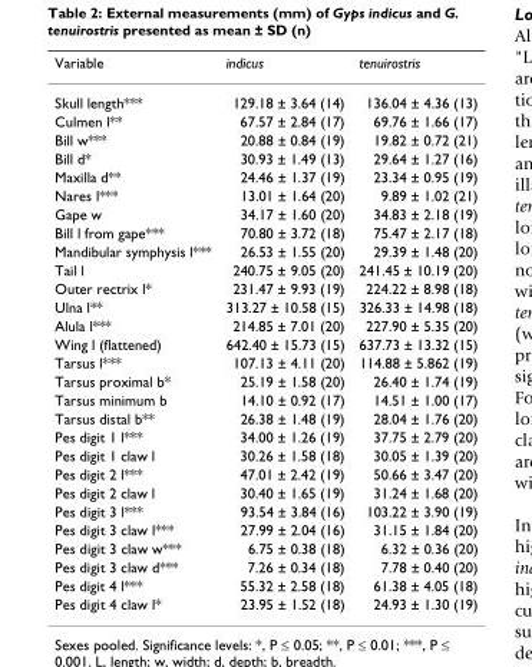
<table><thead><tr><td>Variable</td><td>indicus</td><td>tenuirostris</td></tr></thead><tbody><tr><td>Skull length***</td><td>129.18 ± 3.64 (14)</td><td>136.04 ± 4.36 (13)</td></tr><tr><td>Culmen l**</td><td>67.57 ± 2.84 (17)</td><td>69.76 ± 1.66 (17)</td></tr><tr><td>Bill w***</td><td>20.88 ± 0.84 (19)</td><td>19.82 ± 0.72 (21)</td></tr><tr><td>Bill d*</td><td>30.93 ± 1.49 (13)</td><td>29.64 ± 1.27 (16)</td></tr><tr><td>Maxilla d**</td><td>24.46 ± 1.37 (19)</td><td>23.34 ± 0.95 (19)</td></tr><tr><td>Nares l***</td><td>13.01 ± 1.64 (20)</td><td>9.89 ± 1.02 (21)</td></tr><tr><td>Gape w</td><td>34.17 ± 1.60 (20)</td><td>34.83 ± 2.18 (19)</td></tr><tr><td>Bill l from gape***</td><td>70.80 ± 3.72 (18)</td><td>75.47 ± 2.17 (18)</td></tr><tr><td>Mandibular symphysis l***</td><td>26.53 ± 1.55 (20)</td><td>29.39 ± 1.48 (20)</td></tr><tr><td>Tail l</td><td>240.75 ± 9.05 (20)</td><td>241.45 ± 10.19 (20)</td></tr><tr><td>Outer rectrix l*</td><td>231.47 ± 9.93 (19)</td><td>224.22 ± 8.98 (18)</td></tr><tr><td>Ulna l**</td><td>313.27 ± 10.58 (15)</td><td>326.33 ± 14.98 (18)</td></tr><tr><td>Alula l***</td><td>214.85 ± 7.01 (20)</td><td>227.90 ± 5.35 (20)</td></tr><tr><td>Wing l (flattened)</td><td>642.40 ± 15.73 (15)</td><td>637.73 ± 13.32 (15)</td></tr><tr><td>Tarsus l***</td><td>107.13 ± 4.11 (20)</td><td>114.88 ± 5.862 (19)</td></tr><tr><td>Tarsus proximal b*</td><td>25.19 ± 1.58 (20)</td><td>26.40 ± 1.74 (19)</td></tr><tr><td>Tarsus minimum b</td><td>14.10 ± 0.92 (17)</td><td>14.51 ± 1.00 (17)</td></tr><tr><td>Tarsus distal b**</td><td>26.38 ± 1.48 (19)</td><td>28.04 ± 1.76 (20)</td></tr><tr><td>Pes digit 1 l***</td><td>34.00 ± 1.26 (19)</td><td>37.75 ± 2.79 (20)</td></tr><tr><td>Pes digit 1 claw l</td><td>30.26 ± 1.58 (18)</td><td>30.05 ± 1.39 (20)</td></tr><tr><td>Pes digit 2 l***</td><td>47.01 ± 2.42 (19)</td><td>50.66 ± 3.47 (20)</td></tr><tr><td>Pes digit 2 claw l</td><td>30.40 ± 1.65 (19)</td><td>31.24 ± 1.68 (20)</td></tr><tr><td>Pes digit 3 l***</td><td>93.54 ± 3.84 (16)</td><td>103.22 ± 3.90 (19)</td></tr><tr><td>Pes digit 3 claw l***</td><td>27.99 ± 2.04 (16)</td><td>31.15 ± 1.84 (20)</td></tr><tr><td>Pes digit 3 claw w***</td><td>6.75 ± 0.38 (18)</td><td>6.32 ± 0.36 (20)</td></tr><tr><td>Pes digit 3 claw d***</td><td>7.26 ± 0.34 (18)</td><td>7.78 ± 0.40 (20)</td></tr><tr><td>Pes digit 4 l***</td><td>55.32 ± 2.58 (18)</td><td>61.38 ± 4.05 (18)</td></tr><tr><td>Pes digit 4 claw l*</td><td>23.95 ± 1.52 (18)</td><td>24.93 ± 1.30 (19)</td></tr></tbody></table>